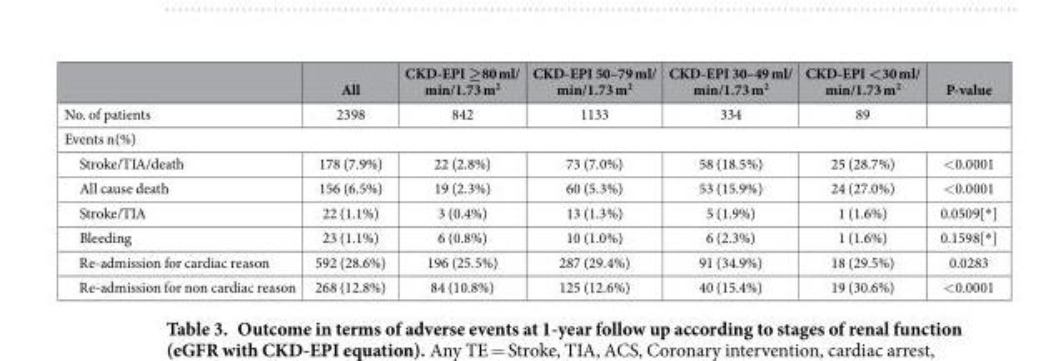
<table><thead><tr><td></td><td>All</td><td>CKD-EPI ≥80 ml/ min/1.73 m<sup>2</sup></td><td>CKD-EPI 50–79 ml/ min/1.73 m<sup>2</sup></td><td>CKD-EPI 30–49 ml/ min/1.73 m<sup>2</sup></td><td>CKD-EPI &lt;30 ml/ min/1.73 m<sup>2</sup></td><td>P-value</td></tr></thead><tbody><tr><td>No. of patients</td><td>2398</td><td>842</td><td>1133</td><td>334</td><td>89</td><td></td></tr><tr><td colspan="7">Events n(%)</td></tr><tr><td>Stroke/TIA/death</td><td>178 (7.9%)</td><td>22 (2.8%)</td><td>73 (7.0%)</td><td>58 (18.5%)</td><td>25 (28.7%)</td><td>&lt; 0.0001</td></tr><tr><td>All cause death</td><td>156 (6.5%)</td><td>19 (2.3%)</td><td>60 (5.3%)</td><td>53 (15.9%)</td><td>24 (27.0%)</td><td>&lt; 0.0001</td></tr><tr><td>Stroke/TIA</td><td>22 (1.1%)</td><td>3 (0.4%)</td><td>13 (1.3%)</td><td>5 (1.9%)</td><td>1 (1.6%)</td><td>0.0509[* ]</td></tr><tr><td>Bleeding</td><td>23 (1.1%)</td><td>6 (0.8%)</td><td>10 (1.0%)</td><td>6 (2.3%)</td><td>1 (1.6%)</td><td>0.1598[* ]</td></tr><tr><td>Re-admission for cardiac reason</td><td>592 (28.6%)</td><td>196 (25.5%)</td><td>287 (29.4%)</td><td>91 (34.9%)</td><td>18 (29.5%)</td><td>0.0283</td></tr><tr><td>Re-admission for non cardiac reason</td><td>268 (12.8%)</td><td>84 (10.8%)</td><td>125 (12.6%)</td><td>40 (15.4%)</td><td>19 (30.6%)</td><td>&lt; 0.0001</td></tr></tbody></table>